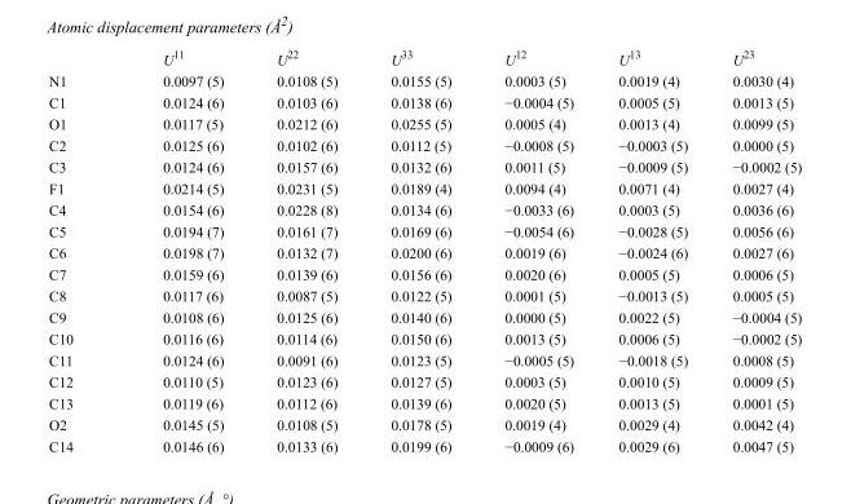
<table><thead><tr><td></td><td>U<sup>11</sup></td><td>U<sup>22</sup></td><td>U<sup>33</sup></td><td>U<sup>12</sup></td><td>U<sup>13</sup></td><td>U<sup>23</sup></td></tr></thead><tbody><tr><td>N1</td><td>0.0097 (5)</td><td>0.0108 (5)</td><td>0.0155 (5)</td><td>0.0003 (5)</td><td>0.0019 (4)</td><td>0.0030 (4)</td></tr><tr><td>C1</td><td>0.0124 (6)</td><td>0.0103 (6)</td><td>0.0138 (6)</td><td>−0.0004 (5)</td><td>0.0005 (5)</td><td>0.0013 (5)</td></tr><tr><td>O1</td><td>0.0117 (5)</td><td>0.0212 (6)</td><td>0.0255 (5)</td><td>0.0005 (4)</td><td>0.0013 (4)</td><td>0.0099 (5)</td></tr><tr><td>C2</td><td>0.0125 (6)</td><td>0.0102 (6)</td><td>0.0112 (5)</td><td>−0.0008 (5)</td><td>−0.0003 (5)</td><td>0.0000 (5)</td></tr><tr><td>C3</td><td>0.0124 (6)</td><td>0.0157 (6)</td><td>0.0132 (6)</td><td>0.0011 (5)</td><td>−0.0009 (5)</td><td>−0.0002 (5)</td></tr><tr><td>F1</td><td>0.0214 (5)</td><td>0.0231 (5)</td><td>0.0189 (4)</td><td>0.0094 (4)</td><td>0.0071 (4)</td><td>0.0027 (4)</td></tr><tr><td>C4</td><td>0.0154 (6)</td><td>0.0228 (8)</td><td>0.0134 (6)</td><td>−0.0033 (6)</td><td>0.0003 (5)</td><td>0.0036 (6)</td></tr><tr><td>C5</td><td>0.0194 (7)</td><td>0.0161 (7)</td><td>0.0169 (6)</td><td>−0.0054 (6)</td><td>−0.0028 (5)</td><td>0.0056 (6)</td></tr><tr><td>C6</td><td>0.0198 (7)</td><td>0.0132 (7)</td><td>0.0200 (6)</td><td>0.0019 (6)</td><td>−0.0024 (6)</td><td>0.0027 (6)</td></tr><tr><td>C7</td><td>0.0159 (6)</td><td>0.0139 (6)</td><td>0.0156 (6)</td><td>0.0020 (6)</td><td>0.0005 (5)</td><td>0.0006 (5)</td></tr><tr><td>C8</td><td>0.0117 (6)</td><td>0.0087 (5)</td><td>0.0122 (5)</td><td>0.0001 (5)</td><td>−0.0013 (5)</td><td>0.0005 (5)</td></tr><tr><td>C9</td><td>0.0108 (6)</td><td>0.0125 (6)</td><td>0.0140 (6)</td><td>0.0000 (5)</td><td>0.0022 (5)</td><td>−0.0004 (5)</td></tr><tr><td>C10</td><td>0.0116 (6)</td><td>0.0114 (6)</td><td>0.0150 (6)</td><td>0.0013 (5)</td><td>0.0006 (5)</td><td>−0.0002 (5)</td></tr><tr><td>C11</td><td>0.0124 (6)</td><td>0.0091 (6)</td><td>0.0123 (5)</td><td>−0.0005 (5)</td><td>−0.0018 (5)</td><td>0.0008 (5)</td></tr><tr><td>C12</td><td>0.0110 (5)</td><td>0.0123 (6)</td><td>0.0127 (5)</td><td>0.0003 (5)</td><td>0.0010 (5)</td><td>0.0009 (5)</td></tr><tr><td>C13</td><td>0.0119 (6)</td><td>0.0112 (6)</td><td>0.0139 (6)</td><td>0.0020 (5)</td><td>0.0013 (5)</td><td>0.0001 (5)</td></tr><tr><td>O2</td><td>0.0145 (5)</td><td>0.0108 (5)</td><td>0.0178 (5)</td><td>0.0019 (4)</td><td>0.0029 (4)</td><td>0.0042 (4)</td></tr><tr><td>C14</td><td>0.0146 (6)</td><td>0.0133 (6)</td><td>0.0199 (6)</td><td>−0.0009 (6)</td><td>0.0029 (6)</td><td>0.0047 (5)</td></tr></tbody></table>